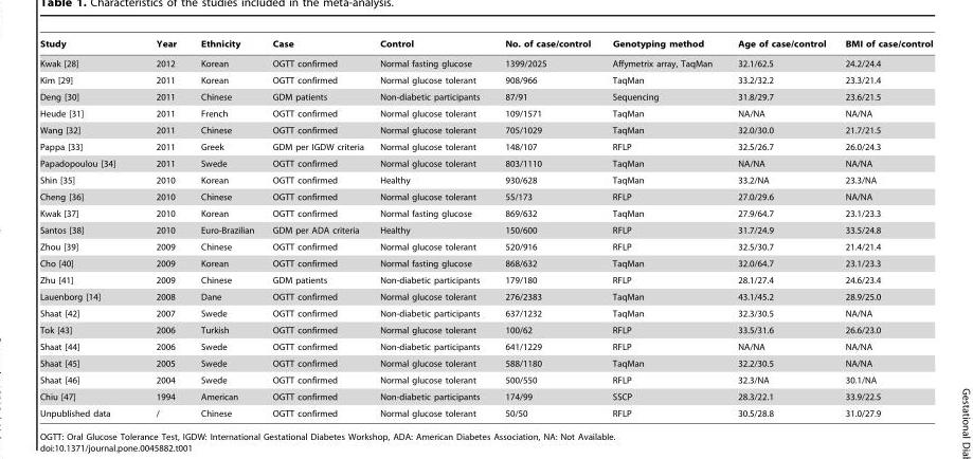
<table><thead><tr><td>Study</td><td>Year</td><td>Ethnicity</td><td>Case</td><td>Control</td><td>No. of case/control</td><td>Genotyping method</td><td>Age of case/control</td><td>BMI of case/control</td></tr></thead><tbody><tr><td>Kwak [28]</td><td>2012</td><td>Korean</td><td>OGTT confirmed</td><td>Normal fasting glucose</td><td>1399/2025</td><td>Affymetrix array, TaqMan</td><td>32.1/62.5</td><td>24.2/24.4</td></tr><tr><td>Kim [29]</td><td>2011</td><td>Korean</td><td>OGTT confirmed</td><td>Normal glucose tolerant</td><td>908/966</td><td>TaqMan</td><td>33.2/32.2</td><td>23.3/21.4</td></tr><tr><td>Deng [30]</td><td>2011</td><td>Chinese</td><td>GDM patients</td><td>Non-diabetic participants</td><td>87/91</td><td>Sequencing</td><td>31.8/29.7</td><td>23.6/21.5</td></tr><tr><td>Heude [31]</td><td>2011</td><td>French</td><td>OGTT confirmed</td><td>Normal glucose tolerant</td><td>109/1571</td><td>TaqMan</td><td>NA/NA</td><td>NA/NA</td></tr><tr><td>Wang [32]</td><td>2011</td><td>Chinese</td><td>OGTT confirmed</td><td>Normal glucose tolerant</td><td>705/1029</td><td>TaqMan</td><td>32.0/30.0</td><td>21.7/21.5</td></tr><tr><td>Pappa [33]</td><td>2011</td><td>Greek</td><td>GDM per IGDW criteria</td><td>Normal glucose tolerant</td><td>148/107</td><td>RFLP</td><td>32.5/26.7</td><td>26.0/24.3</td></tr><tr><td>Papadopoulou [34]</td><td>2011</td><td>Swede</td><td>OGTT confirmed</td><td>Normal glucose tolerant</td><td>803/1110</td><td>TaqMan</td><td>NA/NA</td><td>NA/NA</td></tr><tr><td>Shin [35]</td><td>2010</td><td>Korean</td><td>OGTT confirmed</td><td>Healthy</td><td>930/628</td><td>TaqMan</td><td>33.2/NA</td><td>23.3/NA</td></tr><tr><td>Cheng [36]</td><td>2010</td><td>Chinese</td><td>OGTT confirmed</td><td>Normal glucose tolerant</td><td>55/173</td><td>RFLP</td><td>27.0/29.6</td><td>NA/NA</td></tr><tr><td>Kwak [37]</td><td>2010</td><td>Korean</td><td>OGTT confirmed</td><td>Normal fasting glucose</td><td>869/632</td><td>TaqMan</td><td>27.9/64.7</td><td>23.1/23.3</td></tr><tr><td>Santos [38]</td><td>2010</td><td>Euro-Brazilian</td><td>GDM per ADA criteria</td><td>Healthy</td><td>150/600</td><td>RFLP</td><td>31.7/24.9</td><td>33.5/24.8</td></tr><tr><td>Zhou [39]</td><td>2009</td><td>Chinese</td><td>OGTT confirmed</td><td>Normal glucose tolerant</td><td>520/916</td><td>RFLP</td><td>32.5/30.7</td><td>21.4/21.4</td></tr><tr><td>Cho [40]</td><td>2009</td><td>Korean</td><td>OGTT confirmed</td><td>Normal fasting glucose</td><td>868/632</td><td>TaqMan</td><td>32.0/64.7</td><td>23.1/23.3</td></tr><tr><td>Zhu [41]</td><td>2009</td><td>Chinese</td><td>GDM patients</td><td>Non-diabetic participants</td><td>179/180</td><td>RFLP</td><td>28.1/27.4</td><td>24.6/23.4</td></tr><tr><td>Lauenborg [14]</td><td>2008</td><td>Dane</td><td>OGTT confirmed</td><td>Normal glucose tolerant</td><td>276/2383</td><td>TaqMan</td><td>43.1/45.2</td><td>28.9/25.0</td></tr><tr><td>Shaat [42]</td><td>2007</td><td>Swede</td><td>OGTT confirmed</td><td>Non-diabetic participants</td><td>637/1232</td><td>TaqMan</td><td>32.3/30.5</td><td>NA/NA</td></tr><tr><td>Tok [43]</td><td>2006</td><td>Turkish</td><td>OGTT confirmed</td><td>Normal glucose tolerant</td><td>100/62</td><td>RFLP</td><td>33.5/31.6</td><td>26.6/23.0</td></tr><tr><td>Shaat [44]</td><td>2006</td><td>Swede</td><td>OGTT confirmed</td><td>Non-diabetic participants</td><td>641/1229</td><td>RFLP</td><td>NA/NA</td><td>NA/NA</td></tr><tr><td>Shaat [45]</td><td>2005</td><td>Swede</td><td>OGTT confirmed</td><td>Normal glucose tolerant</td><td>588/1180</td><td>TaqMan</td><td>32.2/30.5</td><td>NA/NA</td></tr><tr><td>Shaat [46]</td><td>2004</td><td>Swede</td><td>OGTT confirmed</td><td>Normal glucose tolerant</td><td>500/550</td><td>RFLP</td><td>32.3/NA</td><td>30.1/NA</td></tr><tr><td>Chiu [47]</td><td>1994</td><td>American</td><td>OGTT confirmed</td><td>Non-diabetic participants</td><td>174/99</td><td>SSCP</td><td>28.3/22.1</td><td>33.9/22.5</td></tr><tr><td>Unpublished data</td><td>/</td><td>Chinese</td><td>OGTT confirmed</td><td>Normal glucose tolerant</td><td>50/50</td><td>RFLP</td><td>30.5/28.8</td><td>31.0/27.9</td></tr></tbody></table>